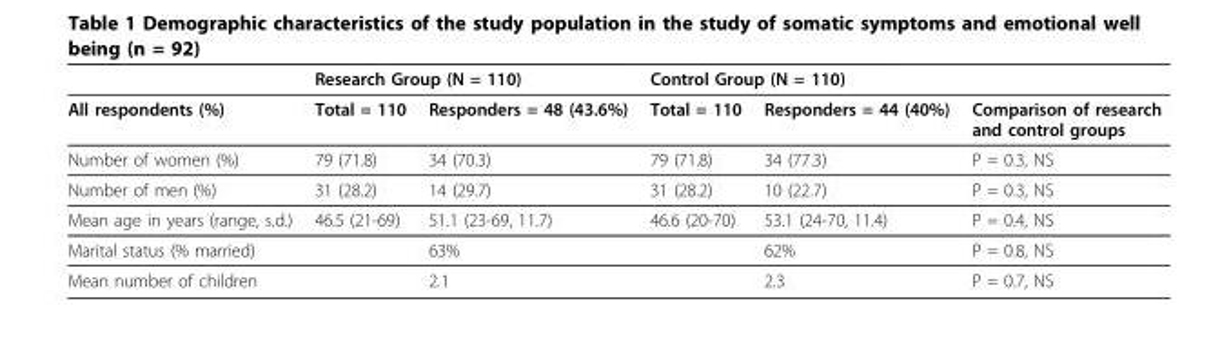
<table><thead><tr><td rowspan="2">All respondents (%)</td><td colspan="2">Research Group (N = 110)</td><td colspan="2">Control Group (N = 110)</td><td rowspan="2">Comparison of research and control groups</td></tr><tr><td>Total = 110</td><td>Responders = 48 (43.6%)</td><td>Total = 110</td><td>Responders = 44 (40%)</td></tr></thead><tbody><tr><td>Number of women (%)</td><td>79 (71.8)</td><td>34 (70.3)</td><td>79 (71.8)</td><td>34 (77.3)</td><td>P = 0.3, NS</td></tr><tr><td>Number of men (%)</td><td>31 (28.2)</td><td>14 (29.7)</td><td>31 (28.2)</td><td>10 (22.7)</td><td>P = 0.3, NS</td></tr><tr><td>Mean age in years (range, s.d.)</td><td>46.5 (21-69)</td><td>51.1 (23-69, 11.7)</td><td>46.6 (20-70)</td><td>53.1 (24-70, 11.4)</td><td>P = 0.4, NS</td></tr><tr><td>Marital status (% married)</td><td></td><td>63%</td><td></td><td>62%</td><td>P = 0.8, NS</td></tr><tr><td>Mean number of children</td><td></td><td>2.1</td><td></td><td>2.3</td><td>P = 0.7, NS</td></tr></tbody></table>